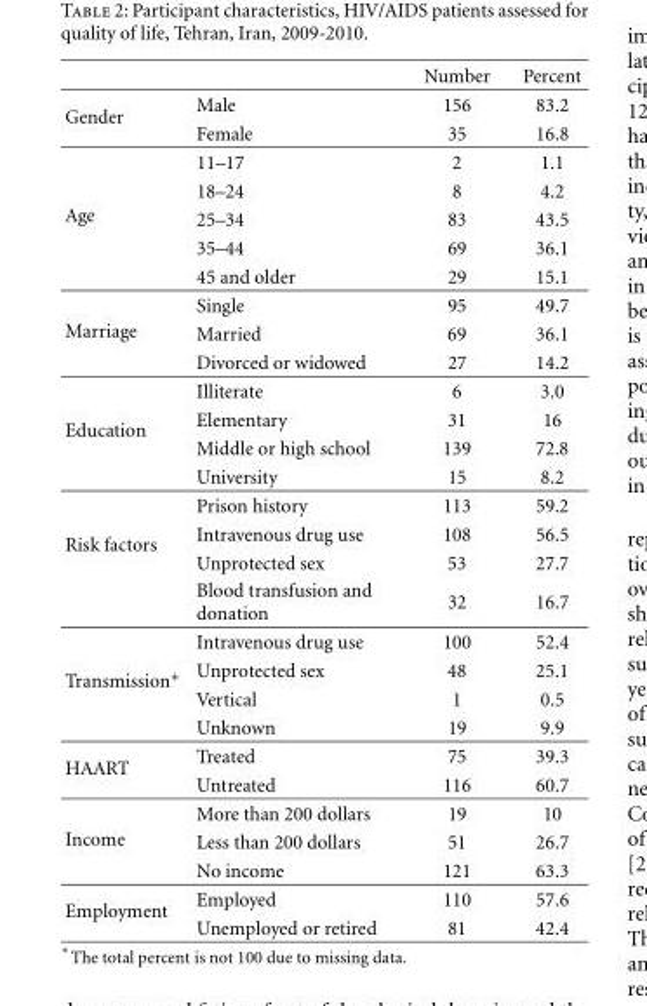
<table><thead><tr><td></td><td></td><td>Number</td><td>Percent</td></tr></thead><tbody><tr><td rowspan="2">Gender</td><td>Male</td><td>156</td><td>83.2</td></tr><tr><td>Female</td><td>35</td><td>16.8</td></tr><tr><td rowspan="5">Age</td><td>11–17</td><td>2</td><td>1.1</td></tr><tr><td>18–24</td><td>8</td><td>4.2</td></tr><tr><td>25–34</td><td>83</td><td>43.5</td></tr><tr><td>35–44</td><td>69</td><td>36.1</td></tr><tr><td>45 and older</td><td>29</td><td>15.1</td></tr><tr><td rowspan="3">Marriage</td><td>Single</td><td>95</td><td>49.7</td></tr><tr><td>Married</td><td>69</td><td>36.1</td></tr><tr><td>Divorced or widowed</td><td>27</td><td>14.2</td></tr><tr><td rowspan="4">Education</td><td>Illiterate</td><td>6</td><td>3.0</td></tr><tr><td>Elementary</td><td>31</td><td>16</td></tr><tr><td>Middle or high school</td><td>139</td><td>72.8</td></tr><tr><td>University</td><td>15</td><td>8.2</td></tr><tr><td rowspan="4">Risk factors</td><td>Prison history</td><td>113</td><td>59.2</td></tr><tr><td>Intravenous drug use</td><td>108</td><td>56.5</td></tr><tr><td>Unprotected sex</td><td>53</td><td>27.7</td></tr><tr><td>Blood transfusion and donation</td><td>32</td><td>16.7</td></tr><tr><td rowspan="4">Transmission∗</td><td>Intravenous drug use</td><td>100</td><td>52.4</td></tr><tr><td>Unprotected sex</td><td>48</td><td>25.1</td></tr><tr><td>Vertical</td><td>1</td><td>0.5</td></tr><tr><td>Unknown</td><td>19</td><td>9.9</td></tr><tr><td rowspan="2">HAART</td><td>Treated</td><td>75</td><td>39.3</td></tr><tr><td>Untreated</td><td>116</td><td>60.7</td></tr><tr><td rowspan="3">Income</td><td>More than 200 dollars</td><td>19</td><td>10</td></tr><tr><td>Less than 200 dollars</td><td>51</td><td>26.7</td></tr><tr><td>No income</td><td>121</td><td>63.3</td></tr><tr><td rowspan="2">Employment</td><td>Employed</td><td>110</td><td>57.6</td></tr><tr><td>Unemployed or retired</td><td>81</td><td>42.4</td></tr></tbody></table>